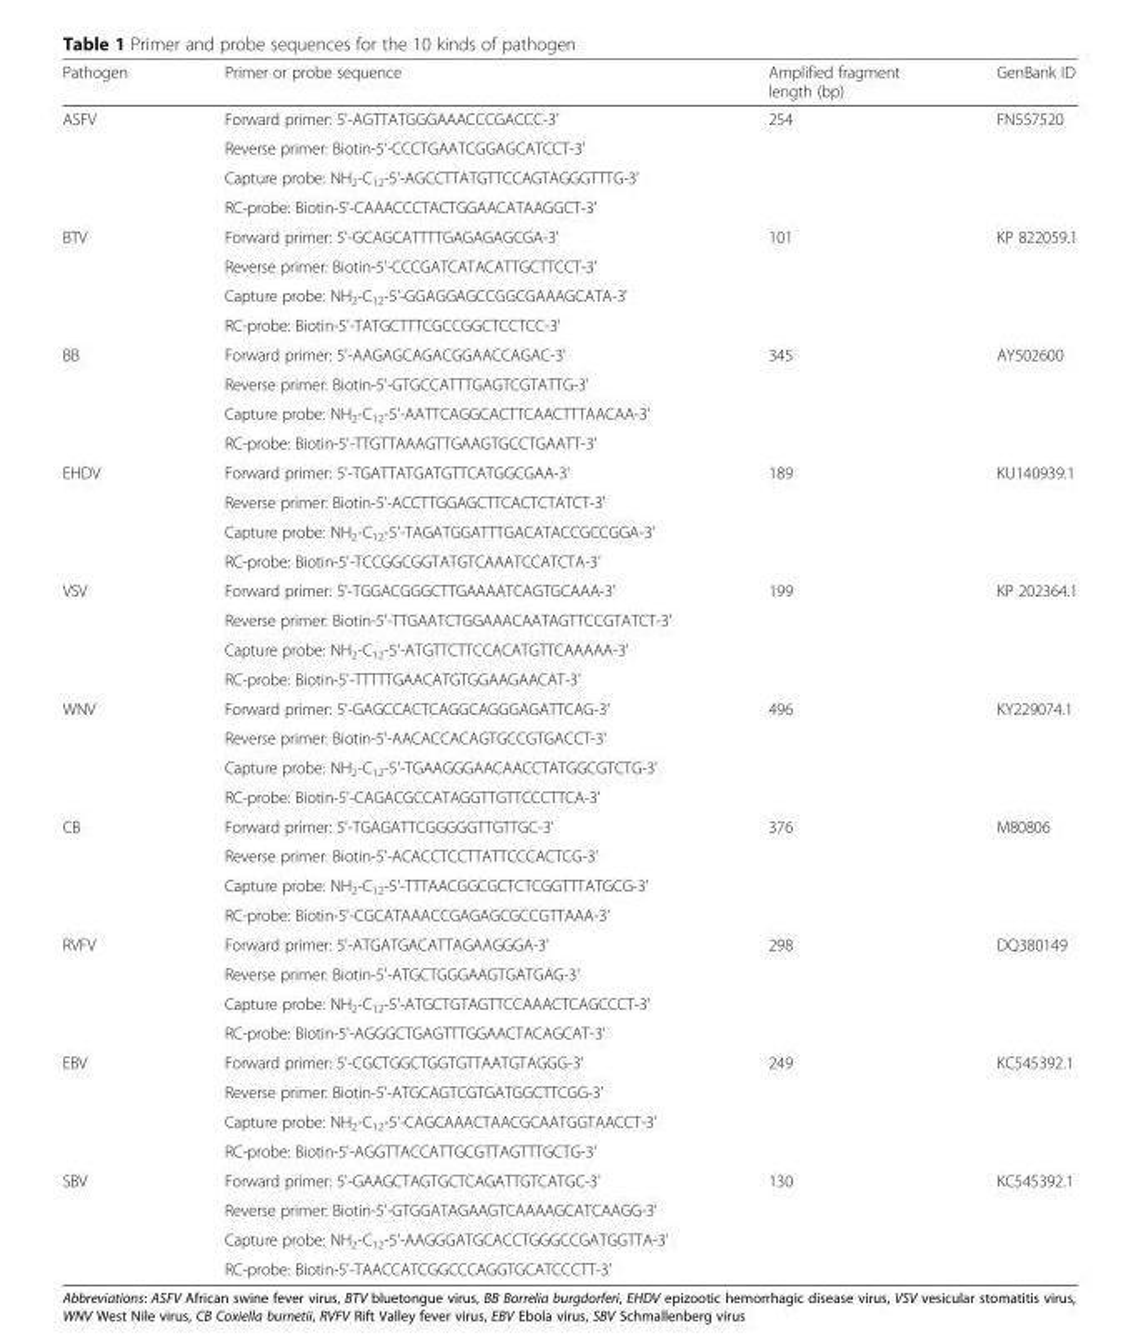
<table><thead><tr><td>Pathogen</td><td>Primer or probe sequence</td><td>Amplified fragment length (bp)</td><td>GenBank ID</td></tr></thead><tbody><tr><td rowspan="4">ASFV</td><td>Forward primer: 5&#x27;-AGTTATGGGAAACCCGACCC-3&#x27;</td><td rowspan="4">254</td><td rowspan="4">FN557520</td></tr><tr><td>Reverse primer: Biotin-5&#x27;-CCCTGAATCGGAGCATCCT-3&#x27;</td></tr><tr><td>Capture probe: NH<sub>2</sub>-C<sub>12</sub>-5&#x27;-AGCCTTATGTTCCAGTAGGGTTTG-3&#x27;</td></tr><tr><td>RC-probe: Biotin-5&#x27;-CAAACCCTACTGGAACATAAGGCT-3&#x27;</td></tr><tr><td rowspan="4">BTV</td><td>Forward primer: 5&#x27;-GCAGCATTTTGAGAGAGCGA-3&#x27;</td><td rowspan="4">101</td><td rowspan="4">KP 822059.1</td></tr><tr><td>Reverse primer: Biotin-5&#x27;-CCCGATCATACATTGCTTCCT-3&#x27;</td></tr><tr><td>Capture probe: NH<sub>2</sub>-C<sub>12</sub>-5&#x27;-GGAGGAGCCGGCGAAAGCATA-3&#x27;</td></tr><tr><td>RC-probe: Biotin-5&#x27;-TATGCTTTCGCCGGCTCCTCC-3&#x27;</td></tr><tr><td rowspan="4">BB</td><td>Forward primer: 5&#x27;-AAGAGCAGACGGAACCAGAC-3&#x27;</td><td rowspan="4">345</td><td rowspan="4">AY502600</td></tr><tr><td>Reverse primer: Biotin-5&#x27;-GTGCCATTTGAGTCGTATTG-3&#x27;</td></tr><tr><td>Capture probe: NH<sub>2</sub>-C<sub>12</sub>-5&#x27;-AATTCAGGCACTTCAACTTTAACAA-3&#x27;</td></tr><tr><td>RC-probe: Biotin-5&#x27;-TTGTTAAAGTTGAAGTGCCTGAATT-3&#x27;</td></tr><tr><td rowspan="4">EHDV</td><td>Forward primer: 5&#x27;-TGATTATGATGTTCATGGCGAA-3&#x27;</td><td rowspan="4">189</td><td rowspan="4">KU140939.1</td></tr><tr><td>Reverse primer: Biotin-5&#x27;-ACCTTGGAGCTTCACTCTATCT-3&#x27;</td></tr><tr><td>Capture probe: NH<sub>2</sub>-C<sub>12</sub>-5&#x27;-TAGATGGATTTGACATACCGCCGGA-3&#x27;</td></tr><tr><td>RC-probe: Biotin-5&#x27;-TCCGGCGGTATGTCAAATCCATCTA-3&#x27;</td></tr><tr><td rowspan="4">VSV</td><td>Forward primer: 5&#x27;-TGGACGGGCTTGAAAATCAGTGCAAA-3&#x27;</td><td rowspan="4">199</td><td rowspan="4">KP 202364.1</td></tr><tr><td>Reverse primer: Biotin-5&#x27;-TTGAATCTGGAAACAATAGTTCCGTATCT-3&#x27;</td></tr><tr><td>Capture probe: NH<sub>2</sub>-C<sub>12</sub>-5&#x27;-ATGTTCTTCCACATGTTCAAAAA-3&#x27;</td></tr><tr><td>RC-probe: Biotin-5&#x27;-TTTTTGAACATGTGGAAGAACAT-3&#x27;</td></tr><tr><td rowspan="4">WNV</td><td>Forward primer: 5&#x27;-GAGCCACTCAGGCAGGGAGATTCAG-3&#x27;</td><td rowspan="4">496</td><td rowspan="4">KY229074.1</td></tr><tr><td>Reverse primer: Biotin-5&#x27;-AACACCACAGTGCCGTGACCT-3&#x27;</td></tr><tr><td>Capture probe: NH<sub>2</sub>-C<sub>12</sub>-5&#x27;-TGAAGGGAACAACCTATGGCGTCTG-3&#x27;</td></tr><tr><td>RC-probe: Biotin-5&#x27;-CAGACGCCATAGGTTGTTCCCTTCA-3&#x27;</td></tr><tr><td rowspan="4">CB</td><td>Forward primer: 5&#x27;-TGAGATTCGGGGGTTGTTGC-3&#x27;</td><td rowspan="4">376</td><td rowspan="4">M80806</td></tr><tr><td>Reverse primer: Biotin-5&#x27;-ACACCTCCTTATTCCCACTCG-3&#x27;</td></tr><tr><td>Capture probe: NH<sub>2</sub>-C<sub>12</sub>-5&#x27;-TTTAACGGCGCTCTCGGTTTATGCG-3&#x27;</td></tr><tr><td>RC-probe: Biotin-5&#x27;-CGCATAAACCGAGAGCGCCGTTAAA-3&#x27;</td></tr><tr><td rowspan="4">RVFV</td><td>Forward primer: 5&#x27;-ATGATGACATTAGAAGGGA-3&#x27;</td><td rowspan="4">298</td><td rowspan="4">DQ380149</td></tr><tr><td>Reverse primer: Biotin-5&#x27;-ATGCTGGGAAGTGATGAG-3&#x27;</td></tr><tr><td>Capture probe: NH<sub>2</sub>-C<sub>12</sub>-5&#x27;-ATGCTGTAGTTCCAAACTCAGCCCT-3&#x27;</td></tr><tr><td>RC-probe: Biotin-5&#x27;-AGGGCTGAGTTTGGAACTACAGCAT-3&#x27;</td></tr><tr><td rowspan="4">EBV</td><td>Forward primer: 5&#x27;-CGCTGGCTGGTGTTAATGTAGGG-3&#x27;</td><td rowspan="4">249</td><td rowspan="4">KC545392.1</td></tr><tr><td>Reverse primer: Biotin-5&#x27;-ATGCAGTCGTGATGGCTTCGG-3&#x27;</td></tr><tr><td>Capture probe: NH<sub>2</sub>-C<sub>12</sub>-5&#x27;-CAGCAAACTAACGCAATGGTAACCT-3&#x27;</td></tr><tr><td>RC-probe: Biotin-5&#x27;-AGGTTACCATTGCGTTAGTTTGCTG-3&#x27;</td></tr><tr><td rowspan="4">SBV</td><td>Forward primer: 5&#x27;-GAAGCTAGTGCTCAGATTGTCATGC-3&#x27;</td><td rowspan="4">130</td><td rowspan="4">KC545392.1</td></tr><tr><td>Reverse primer: Biotin-5&#x27;-GTGGATAGAAGTCAAAAGCATCAAGG-3&#x27;</td></tr><tr><td>Capture probe: NH<sub>2</sub>-C<sub>12</sub>-5&#x27;-AAGGGATGCACCTGGGCCGATGGTTA-3&#x27;</td></tr><tr><td>RC-probe: Biotin-5&#x27;-TAACCATCGGCCCAGGTGCATCCCTT-3&#x27;</td></tr></tbody></table>